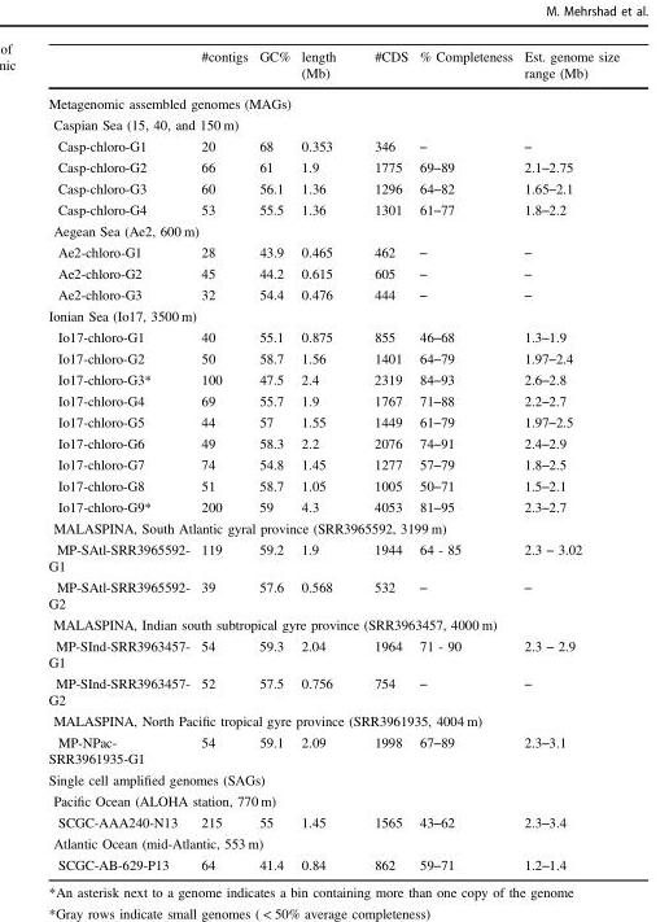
<table><thead><tr><td></td><td>#contigs</td><td>GC%</td><td>length (Mb)</td><td>#CDS</td><td>% Completeness</td><td>Est. genome size range (Mb)</td></tr></thead><tbody><tr><td colspan="7">Metagenomic assembled genomes (MAGs)</td></tr><tr><td colspan="7">Caspian Sea (15, 40, and 150 m)</td></tr><tr><td>Casp-chloro-G1</td><td>20</td><td>68</td><td>0.353</td><td>346</td><td>–</td><td>–</td></tr><tr><td>Casp-chloro-G2</td><td>66</td><td>61</td><td>1.9</td><td>1775</td><td>69–89</td><td>2.1–2.75</td></tr><tr><td>Casp-chloro-G3</td><td>60</td><td>56.1</td><td>1.36</td><td>1296</td><td>64–82</td><td>1.65–2.1</td></tr><tr><td>Casp-chloro-G4</td><td>53</td><td>55.5</td><td>1.36</td><td>1301</td><td>61–77</td><td>1.8–2.2</td></tr><tr><td colspan="7">Aegean Sea (Ae2, 600 m)</td></tr><tr><td>Ae2-chloro-G1</td><td>28</td><td>43.9</td><td>0.465</td><td>462</td><td>–</td><td>–</td></tr><tr><td>Ae2-chloro-G2</td><td>45</td><td>44.2</td><td>0.615</td><td>605</td><td>–</td><td>–</td></tr><tr><td>Ae2-chloro-G3</td><td>32</td><td>54.4</td><td>0.476</td><td>444</td><td>–</td><td>–</td></tr><tr><td colspan="7">Ionian Sea (Io17, 3500 m)</td></tr><tr><td>Io17-chloro-G1</td><td>40</td><td>55.1</td><td>0.875</td><td>855</td><td>46–68</td><td>1.3–1.9</td></tr><tr><td>Io17-chloro-G2</td><td>50</td><td>58.7</td><td>1.56</td><td>1401</td><td>64–79</td><td>1.97–2.4</td></tr><tr><td>Io17-chloro-G3*</td><td>100</td><td>47.5</td><td>2.4</td><td>2319</td><td>84–93</td><td>2.6–2.8</td></tr><tr><td>Io17-chloro-G4</td><td>69</td><td>55.7</td><td>1.9</td><td>1767</td><td>71–88</td><td>2.2–2.7</td></tr><tr><td>Io17-chloro-G5</td><td>44</td><td>57</td><td>1.55</td><td>1449</td><td>61–79</td><td>1.97–2.5</td></tr><tr><td>Io17-chloro-G6</td><td>49</td><td>58.3</td><td>2.2</td><td>2076</td><td>74–91</td><td>2.4–2.9</td></tr><tr><td>Io17-chloro-G7</td><td>74</td><td>54.8</td><td>1.45</td><td>1277</td><td>57–79</td><td>1.8–2.5</td></tr><tr><td>Io17-chloro-G8</td><td>51</td><td>58.7</td><td>1.05</td><td>1005</td><td>50–71</td><td>1.5–2.1</td></tr><tr><td>Io17-chloro-G9*</td><td>200</td><td>59</td><td>4.3</td><td>4053</td><td>81–95</td><td>2.3–2.7</td></tr><tr><td colspan="7">MALASPINA, South Atlantic gyral province (SRR3965592, 3199 m)</td></tr><tr><td>MP-SAtl-SRR3965592- G1</td><td>119</td><td>59.2</td><td>1.9</td><td>1944</td><td>64 - 85</td><td>2.3 – 3.02</td></tr><tr><td>MP-SAtl-SRR3965592- G2</td><td>39</td><td>57.6</td><td>0.568</td><td>532</td><td>–</td><td>–</td></tr><tr><td colspan="7">MALASPINA, Indian south subtropical gyre province (SRR3963457, 4000 m)</td></tr><tr><td>MP-SInd-SRR3963457- G1</td><td>54</td><td>59.3</td><td>2.04</td><td>1964</td><td>71 - 90</td><td>2.3 – 2.9</td></tr><tr><td>MP-SInd-SRR3963457- G2</td><td>52</td><td>57.5</td><td>0.756</td><td>754</td><td>–</td><td>–</td></tr><tr><td colspan="7">MALASPINA, North Pacific tropical gyre province (SRR3961935, 4004 m)</td></tr><tr><td>MP-NPac- SRR3961935-G1</td><td>54</td><td>59.1</td><td>2.09</td><td>1998</td><td>67–89</td><td>2.3–3.1</td></tr><tr><td colspan="7">Single cell amplified genomes (SAGs)</td></tr><tr><td colspan="7">Pacific Ocean (ALOHA station, 770 m)</td></tr><tr><td>SCGC-AAA240-N13</td><td>215</td><td>55</td><td>1.45</td><td>1565</td><td>43–62</td><td>2.3–3.4</td></tr><tr><td colspan="7">Atlantic Ocean (mid-Atlantic, 553 m)</td></tr><tr><td>SCGC-AB-629-P13</td><td>64</td><td>41.4</td><td>0.84</td><td>862</td><td>59–71</td><td>1.2–1.4</td></tr></tbody></table>